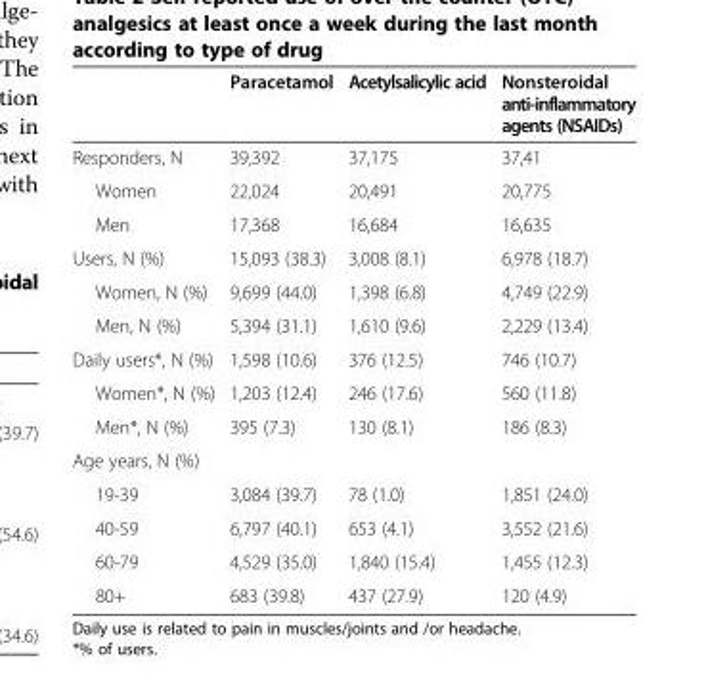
<table><thead><tr><td></td><td>Paracetamol</td><td>Acetylsalicylic acid</td><td>Nonsteroidal anti-inflammatory agents (NSAIDs)</td></tr></thead><tbody><tr><td>Responders, N</td><td>39,392</td><td>37,175</td><td>37,41</td></tr><tr><td>Women</td><td>22,024</td><td>20,491</td><td>20,775</td></tr><tr><td>Men</td><td>17,368</td><td>16,684</td><td>16,635</td></tr><tr><td>Users, N (%)</td><td>15,093 (38.3)</td><td>3,008 (8.1)</td><td>6,978 (18.7)</td></tr><tr><td>Women, N (%)</td><td>9,699 (44.0)</td><td>1,398 (6.8)</td><td>4,749 (22.9)</td></tr><tr><td>Men, N (%)</td><td>5,394 (31.1)</td><td>1,610 (9.6)</td><td>2,229 (13.4)</td></tr><tr><td>Daily users*, N (%)</td><td>1,598 (10.6)</td><td>376 (12.5)</td><td>746 (10.7)</td></tr><tr><td>Women*, N (%)</td><td>1,203 (12.4)</td><td>246 (17.6)</td><td>560 (11.8)</td></tr><tr><td>Men*, N (%)</td><td>395 (7.3)</td><td>130 (8.1)</td><td>186 (8.3)</td></tr><tr><td colspan="4">Age years, N (%)</td></tr><tr><td>19-39</td><td>3,084 (39.7)</td><td>78 (1.0)</td><td>1,851 (24.0)</td></tr><tr><td>40-59</td><td>6,797 (40.1)</td><td>653 (4.1)</td><td>3,552 (21.6)</td></tr><tr><td>60-79</td><td>4,529 (35.0)</td><td>1,840 (15.4)</td><td>1,455 (12.3)</td></tr><tr><td>80+</td><td>683 (39.8)</td><td>437 (27.9)</td><td>120 (4.9)</td></tr></tbody></table>